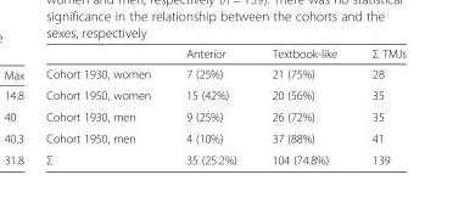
<table><thead><tr><td></td><td>Anterior</td><td>Textbook-like</td><td>Σ TMJs</td></tr></thead><tbody><tr><td>Cohort 1930, women</td><td>7 (25%)</td><td>21 (75%)</td><td>28</td></tr><tr><td>Cohort 1950, women</td><td>15 (42%)</td><td>20 (56%)</td><td>35</td></tr><tr><td>Cohort 1930, men</td><td>9 (25%)</td><td>26 (72%)</td><td>35</td></tr><tr><td>Cohort 1950, men</td><td>4 (10%)</td><td>37 (88%)</td><td>41</td></tr><tr><td>Σ</td><td>35 (25.2%)</td><td>104 (74.8%)</td><td>139</td></tr></tbody></table>